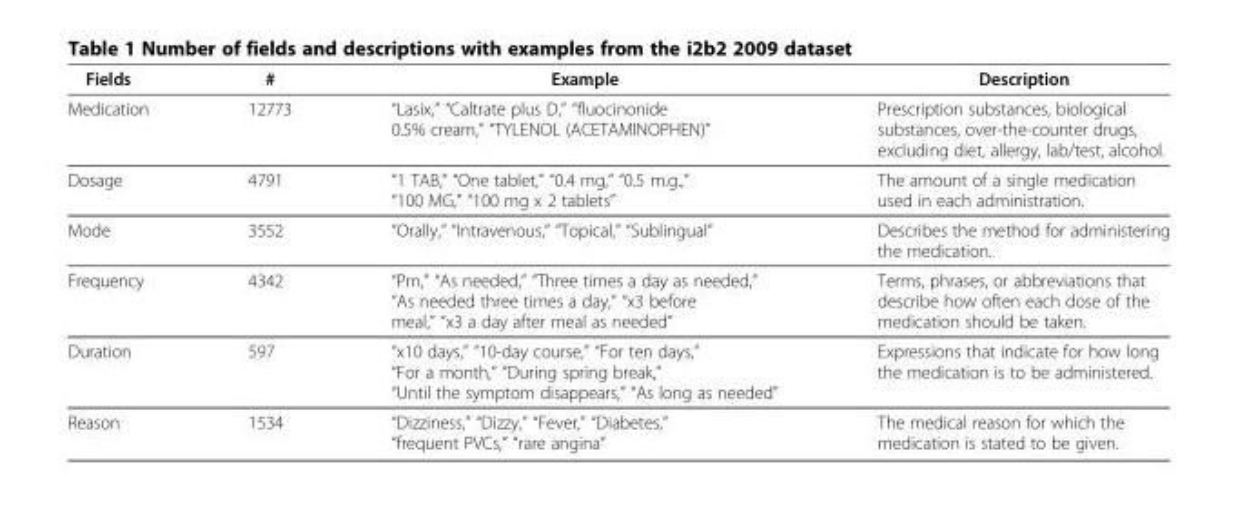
<table><thead><tr><td>Fields</td><td>#</td><td>Example</td><td>Description</td></tr></thead><tbody><tr><td>Medication</td><td>12773</td><td>“Lasix,” “Caltrate plus D,” “fluocinonide 0.5% cream,” “TYLENOL (ACETAMINOPHEN)”</td><td>Prescription substances, biological substances, over-the-counter drugs, excluding diet, allergy, lab/test, alcohol.</td></tr><tr><td>Dosage</td><td>4791</td><td>“1 TAB,” “One tablet,” “0.4 mg,” “0.5 m.g.,” “100 MG,” “100 mg x 2 tablets”</td><td>The amount of a single medication used in each administration.</td></tr><tr><td>Mode</td><td>3552</td><td>“Orally,” “Intravenous,” “Topical,” “Sublingual”</td><td>Describes the method for administering the medication.</td></tr><tr><td>Frequency</td><td>4342</td><td>“Prn,” “As needed,” “Three times a day as needed,” “As needed three times a day,” “x3 before meal,” “x3 a day after meal as needed”</td><td>Terms, phrases, or abbreviations that describe how often each dose of the medication should be taken.</td></tr><tr><td>Duration</td><td>597</td><td>“x10 days,” “10-day course,” “For ten days,” “For a month,” “During spring break,” “Until the symptom disappears,” “As long as needed”</td><td>Expressions that indicate for how long the medication is to be administered.</td></tr><tr><td>Reason</td><td>1534</td><td>“Dizziness,” “Dizzy,” “Fever,” “Diabetes,” “frequent PVCs,” “rare angina”</td><td>The medical reason for which the medication is stated to be given.</td></tr></tbody></table>